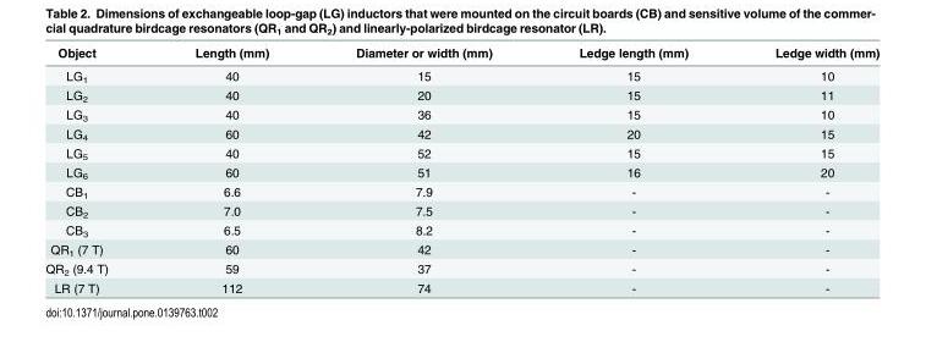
<table><thead><tr><td>Object</td><td>Length (mm)</td><td>Diameter or width (mm)</td><td>Ledge length (mm)</td><td>Ledge width (mm)</td></tr></thead><tbody><tr><td>LG<sub>1</sub></td><td>40</td><td>15</td><td>15</td><td>10</td></tr><tr><td>LG<sub>2</sub></td><td>40</td><td>20</td><td>15</td><td>11</td></tr><tr><td>LG<sub>3</sub></td><td>40</td><td>36</td><td>15</td><td>10</td></tr><tr><td>LG<sub>4</sub></td><td>60</td><td>42</td><td>20</td><td>15</td></tr><tr><td>LG<sub>5</sub></td><td>40</td><td>52</td><td>15</td><td>15</td></tr><tr><td>LG<sub>6</sub></td><td>60</td><td>51</td><td>16</td><td>20</td></tr><tr><td>CB<sub>1</sub></td><td>6.6</td><td>7.9</td><td>-</td><td>-</td></tr><tr><td>CB<sub>2</sub></td><td>7.0</td><td>7.5</td><td>-</td><td>-</td></tr><tr><td>CB<sub>3</sub></td><td>6.5</td><td>8.2</td><td>-</td><td>-</td></tr><tr><td>QR<sub>1</sub> (7 T)</td><td>60</td><td>42</td><td>-</td><td>-</td></tr><tr><td>QR<sub>2</sub> (9.4 T)</td><td>59</td><td>37</td><td>-</td><td>-</td></tr><tr><td>LR (7 T)</td><td>112</td><td>74</td><td>-</td><td>-</td></tr></tbody></table>